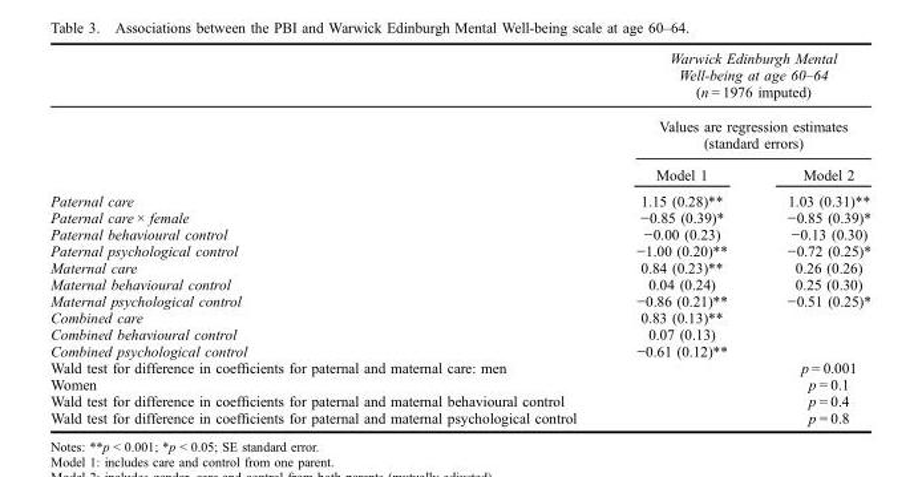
<table><thead><tr><td rowspan="3"></td><td rowspan="2" colspan="2">Warwick Edinburgh Mental Well-being at age 60–64 (n = 1976 imputed) Values are regression estimates (standard errors)</td></tr><tr></tr><tr><td>Model 1</td><td>Model 2</td></tr></thead><tbody><tr><td>Paternal care</td><td>1.15 (0.28)**</td><td>1.03 (0.31)**</td></tr><tr><td>Paternal care × female</td><td>−0.85 (0.39)*</td><td>−0.85 (0.39)*</td></tr><tr><td>Paternal behavioural control</td><td>−0.00 (0.23)</td><td>−0.13 (0.30)</td></tr><tr><td>Paternal psychological control</td><td>−1.00 (0.20)**</td><td>−0.72 (0.25)*</td></tr><tr><td>Maternal care</td><td>0.84 (0.23)**</td><td>0.26 (0.26)</td></tr><tr><td>Maternal behavioural control</td><td>0.04 (0.24)</td><td>0.25 (0.30)</td></tr><tr><td>Maternal psychological control</td><td>−0.86 (0.21)**</td><td>−0.51 (0.25)*</td></tr><tr><td>Combined care</td><td>0.83 (0.13)**</td><td rowspan="3"></td></tr><tr><td>Combined behavioural control</td><td>0.07 (0.13)</td></tr><tr><td>Combined psychological control</td><td>−0.61 (0.12)**</td></tr><tr><td>Wald test for difference in coefficients for paternal and maternal care: men</td><td></td><td>p = 0.001</td></tr><tr><td>Women</td><td></td><td>p = 0.1</td></tr><tr><td>Wald test for difference in coefficients for paternal and maternal behavioural control</td><td></td><td>p = 0.4</td></tr><tr><td>Wald test for difference in coefficients for paternal and maternal psychological control</td><td></td><td>p = 0.8</td></tr></tbody></table>